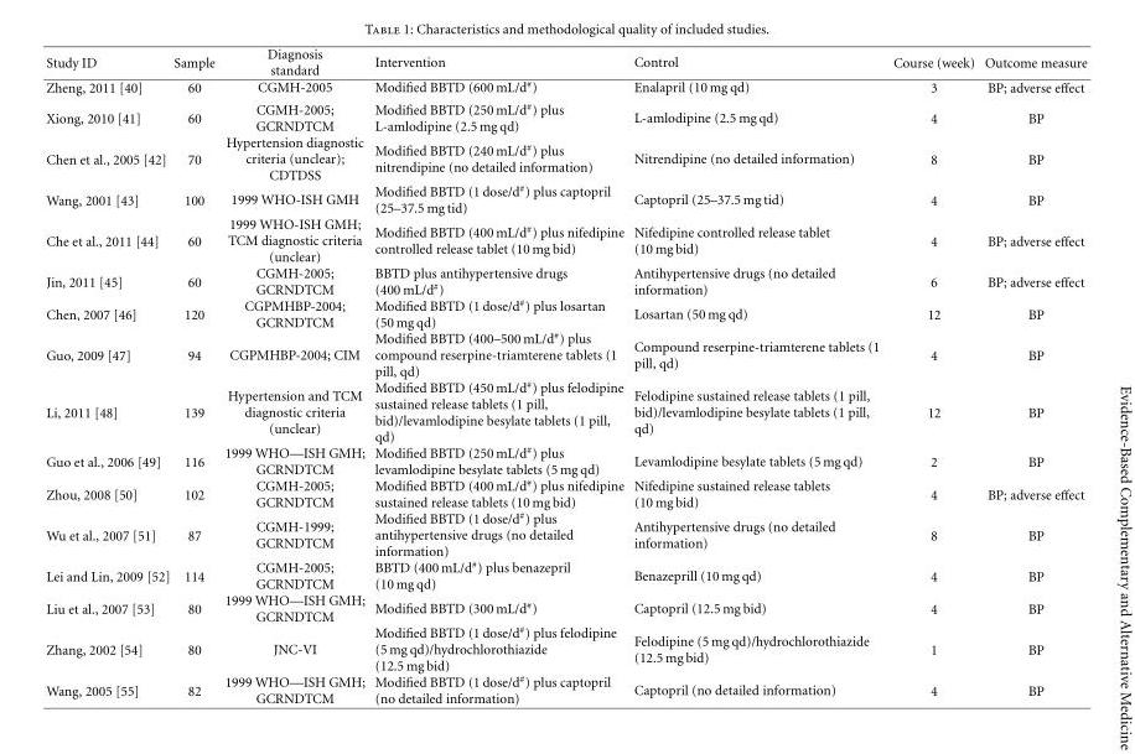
<table><thead><tr><td>Study ID</td><td>Sample</td><td>Diagnosis standard</td><td>Intervention</td><td>Control</td><td>Course (week)</td><td>Outcome measure</td></tr></thead><tbody><tr><td>Zheng, 2011 [40]</td><td>60</td><td>CGMH-2005</td><td>Modified BBTD (600 mL/d<sup>#</sup>)</td><td>Enalapril (10 mg qd)</td><td>3</td><td>BP; adverse effect</td></tr><tr><td>Xiong, 2010 [41]</td><td>60</td><td>CGMH-2005; GCRNDTCM</td><td>Modified BBTD (250 mL/d<sup>#</sup>) plus L-amlodipine (2.5 mg qd)</td><td>L-amlodipine (2.5 mg qd)</td><td>4</td><td>BP</td></tr><tr><td>Chen et al., 2005 [42]</td><td>70</td><td>Hypertension diagnostic criteria (unclear); CDTDSS</td><td>Modified BBTD (240 mL/d<sup>#</sup>) plus nitrendipine (no detailed information)</td><td>Nitrendipine (no detailed information)</td><td>8</td><td>BP</td></tr><tr><td>Wang, 2001 [43]</td><td>100</td><td>1999 WHO-ISH GMH</td><td>Modified BBTD (1 dose/d<sup>#</sup>) plus captopril (25–37.5 mg tid)</td><td>Captopril (25–37.5 mg tid)</td><td>4</td><td>BP</td></tr><tr><td>Che et al., 2011 [44]</td><td>60</td><td>1999 WHO-ISH GMH; TCM diagnostic criteria (unclear)</td><td>Modified BBTD (400 mL/d<sup>#</sup>) plus nifedipine controlled release tablet (10 mg bid)</td><td>Nifedipine controlled release tablet (10 mg bid)</td><td>4</td><td>BP; adverse effect</td></tr><tr><td>Jin, 2011 [45]</td><td>60</td><td>CGMH-2005; GCRNDTCM</td><td>BBTD plus antihypertensive drugs (400 mL/d<sup>#</sup>)</td><td>Antihypertensive drugs (no detailed information)</td><td>6</td><td>BP; adverse effect</td></tr><tr><td>Chen, 2007 [46]</td><td>120</td><td>CGPMHBP-2004; GCRNDTCM</td><td>Modified BBTD (1 dose/d<sup>#</sup>) plus losartan (50 mg qd)</td><td>Losartan (50 mg qd)</td><td>12</td><td>BP</td></tr><tr><td>Guo, 2009 [47]</td><td>94</td><td>CGPMHBP-2004; CIM</td><td>Modified BBTD (400–500 mL/d<sup>#</sup>) plus compound reserpine-triamterene tablets (1 pill, qd)</td><td>Compound reserpine-triamterene tablets (1 pill, qd)</td><td>4</td><td>BP</td></tr><tr><td>Li, 2011 [48]</td><td>139</td><td>Hypertension and TCM diagnostic criteria (unclear)</td><td>Modified BBTD (450 mL/d<sup>#</sup>) plus felodipine sustained release tablets (1 pill, bid)/levamlodipine besylate tablets (1 pill, qd)</td><td>Felodipine sustained release tablets (1 pill, bid)/levamlodipine besylate tablets (1 pill, qd)</td><td>12</td><td>BP</td></tr><tr><td>Guo et al., 2006 [49]</td><td>116</td><td>1999 WHO—ISH GMH; GCRNDTCM</td><td>Modified BBTD (250 mL/d<sup>#</sup>) plus levamlodipine besylate tablets (5 mg qd)</td><td>Levamlodipine besylate tablets (5 mg qd)</td><td>2</td><td>BP</td></tr><tr><td>Zhou, 2008 [50]</td><td>102</td><td>CGMH-2005; GCRNDTCM</td><td>Modified BBTD (400 mL/d<sup>#</sup>) plus nifedipine sustained release tablets (10 mg bid)</td><td>Nifedipine sustained release tablets (10 mg bid)</td><td>4</td><td>BP; adverse effect</td></tr><tr><td>Wu et al., 2007 [51]</td><td>87</td><td>CGMH-1999; GCRNDTCM</td><td>Modified BBTD (1 dose/d<sup>#</sup>) plus antihypertensive drugs (no detailed information)</td><td>Antihypertensive drugs (no detailed information)</td><td>8</td><td>BP</td></tr><tr><td>Lei and Lin, 2009 [52]</td><td>114</td><td>CGMH-2005; GCRNDTCM</td><td>BBTD (400 mL/d<sup>#</sup>) plus benazepril (10 mg qd)</td><td>Benazeprill (10 mg qd)</td><td>4</td><td>BP</td></tr><tr><td>Liu et al., 2007 [53]</td><td>80</td><td>1999 WHO—ISH GMH; GCRNDTCM</td><td>Modified BBTD (300 mL/d<sup>#</sup>)</td><td>Captopril (12.5 mg bid)</td><td>4</td><td>BP</td></tr><tr><td>Zhang, 2002 [54]</td><td>80</td><td>JNC-VI</td><td>Modified BBTD (1 dose/d<sup>#</sup>) plus felodipine (5 mg qd)/hydrochlorothiazide (12.5 mg bid)</td><td>Felodipine (5 mg qd)/hydrochlorothiazide (12.5 mg bid)</td><td>1</td><td>BP</td></tr><tr><td>Wang, 2005 [55]</td><td>82</td><td>1999 WHO—ISH GMH; GCRNDTCM</td><td>Modified BBTD (1 dose/d<sup>#</sup>) plus captopril (no detailed information)</td><td>Captopril (no detailed information)</td><td>4</td><td>BP</td></tr></tbody></table>